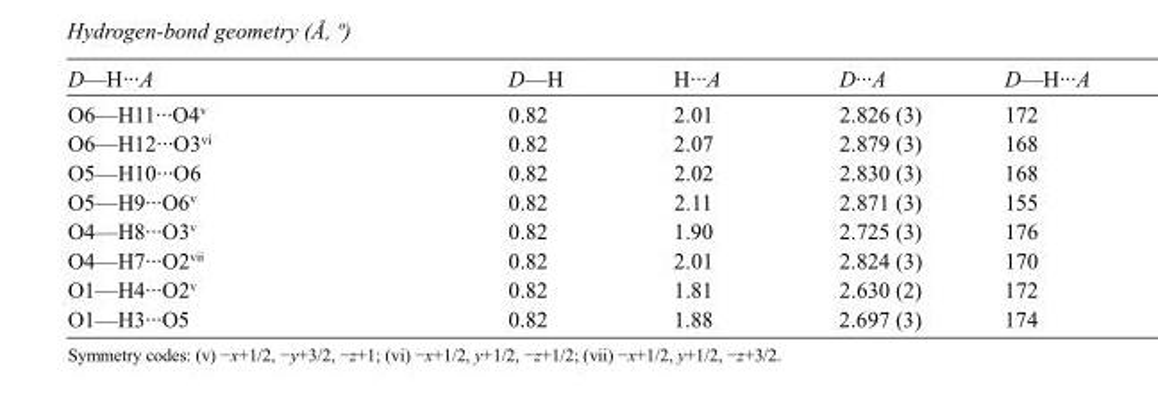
<table><tbody><tr><td>D—H···A</td><td>D—H</td><td>H···A</td><td>D···A</td><td>D—H···A</td></tr><tr><td>O6—H11···O4<sup>v</sup></td><td>0.82</td><td>2.01</td><td>2.826 (3)</td><td>172</td></tr><tr><td>O6—H12···O3<sup>vi</sup></td><td>0.82</td><td>2.07</td><td>2.879 (3)</td><td>168</td></tr><tr><td>O5—H10···O6</td><td>0.82</td><td>2.02</td><td>2.830 (3)</td><td>168</td></tr><tr><td>O5—H9···O6<sup>v</sup></td><td>0.82</td><td>2.11</td><td>2.871 (3)</td><td>155</td></tr><tr><td>O4—H8···O3<sup>v</sup></td><td>0.82</td><td>1.90</td><td>2.725 (3)</td><td>176</td></tr><tr><td>O4—H7···O2<sup>vii</sup></td><td>0.82</td><td>2.01</td><td>2.824 (3)</td><td>170</td></tr><tr><td>O1—H4···O2<sup>v</sup></td><td>0.82</td><td>1.81</td><td>2.630 (2)</td><td>172</td></tr><tr><td>O1—H3···O5</td><td>0.82</td><td>1.88</td><td>2.697 (3)</td><td>174</td></tr></tbody></table>